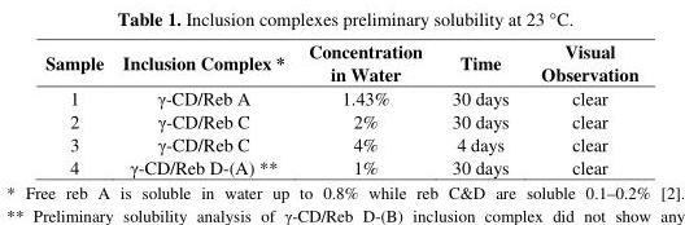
<table><thead><tr><td>Sample</td><td>Inclusion Complex *</td><td>Concentration in Water</td><td>Time</td><td>Visual Observation</td></tr></thead><tbody><tr><td>1</td><td>γ-CD/Reb A</td><td>1.43%</td><td>30 days</td><td>clear</td></tr><tr><td>2</td><td>γ-CD/Reb C</td><td>2%</td><td>30 days</td><td>clear</td></tr><tr><td>3</td><td>γ-CD/Reb C</td><td>4%</td><td>4 days</td><td>clear</td></tr><tr><td>4</td><td>γ-CD/Reb D-(A) **</td><td>1%</td><td>30 days</td><td>clear</td></tr></tbody></table>